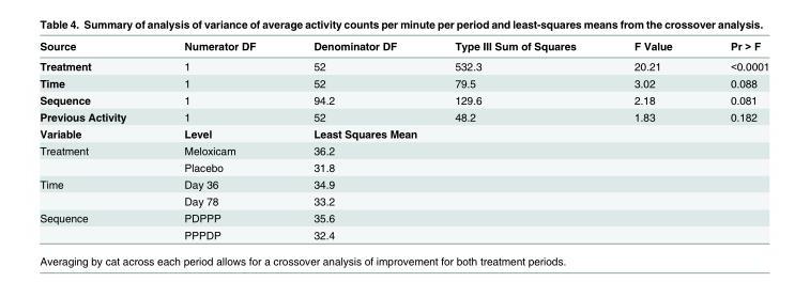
<table><thead><tr><td>Source</td><td>Numerator DF</td><td>Denominator DF</td><td>Type III Sum of Squares</td><td>F Value</td><td>Pr &gt; F</td></tr></thead><tbody><tr><td>Treatment</td><td>1</td><td>52</td><td>532.3</td><td>20.21</td><td>&lt;0.0001</td></tr><tr><td>Time</td><td>1</td><td>52</td><td>79.5</td><td>3.02</td><td>0.088</td></tr><tr><td>Sequence</td><td>1</td><td>94.2</td><td>129.6</td><td>2.18</td><td>0.081</td></tr><tr><td>Previous Activity</td><td>1</td><td>52</td><td>48.2</td><td>1.83</td><td>0.182</td></tr><tr><td>Variable</td><td>Level</td><td colspan="4">Least Squares Mean</td></tr><tr><td rowspan="2">Treatment</td><td>Meloxicam</td><td colspan="4">36.2</td></tr><tr><td>Placebo</td><td colspan="4">31.8</td></tr><tr><td rowspan="2">Time</td><td>Day 36</td><td colspan="4">34.9</td></tr><tr><td>Day 78</td><td colspan="4">33.2</td></tr><tr><td rowspan="2">Sequence</td><td>PDPPP</td><td colspan="4">35.6</td></tr><tr><td>PPPDP</td><td colspan="4">32.4</td></tr></tbody></table>